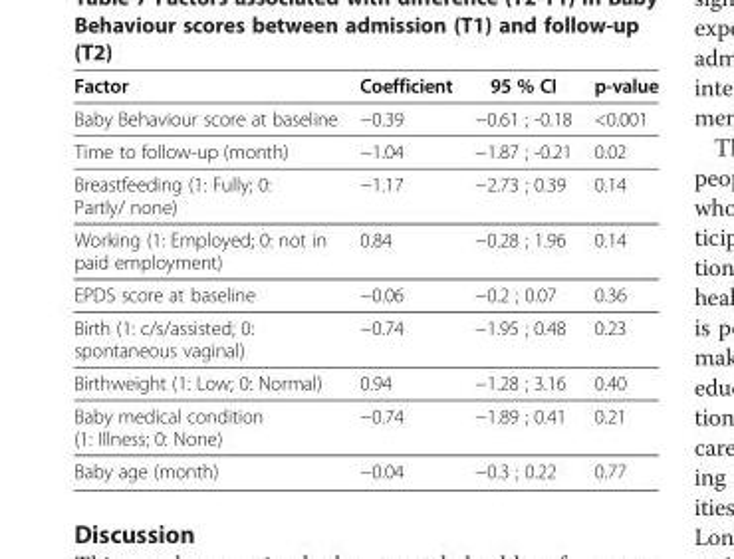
<table><thead><tr><td>Factor</td><td>Coefficient</td><td>95 % CI</td><td>p-value</td></tr></thead><tbody><tr><td>Baby Behaviour score at baseline</td><td>−0.39</td><td>−0.61 ; -0.18</td><td>&lt;0.001</td></tr><tr><td>Time to follow-up (month)</td><td>−1.04</td><td>−1.87 ; -0.21</td><td>0.02</td></tr><tr><td>Breastfeeding (1: Fully; 0: Partly/ none)</td><td>−1.17</td><td>−2.73 ; 0.39</td><td>0.14</td></tr><tr><td>Working (1: Employed; 0: not in paid employment)</td><td>0.84</td><td>−0.28 ; 1.96</td><td>0.14</td></tr><tr><td>EPDS score at baseline</td><td>−0.06</td><td>−0.2 ; 0.07</td><td>0.36</td></tr><tr><td>Birth (1: c/s/assisted; 0: spontaneous vaginal)</td><td>−0.74</td><td>−1.95 ; 0.48</td><td>0.23</td></tr><tr><td>Birthweight (1: Low; 0: Normal)</td><td>0.94</td><td>−1.28 ; 3.16</td><td>0.40</td></tr><tr><td>Baby medical condition (1: Illness; 0: None)</td><td>−0.74</td><td>−1.89 ; 0.41</td><td>0.21</td></tr><tr><td>Baby age (month)</td><td>−0.04</td><td>−0.3 ; 0.22</td><td>0.77</td></tr></tbody></table>